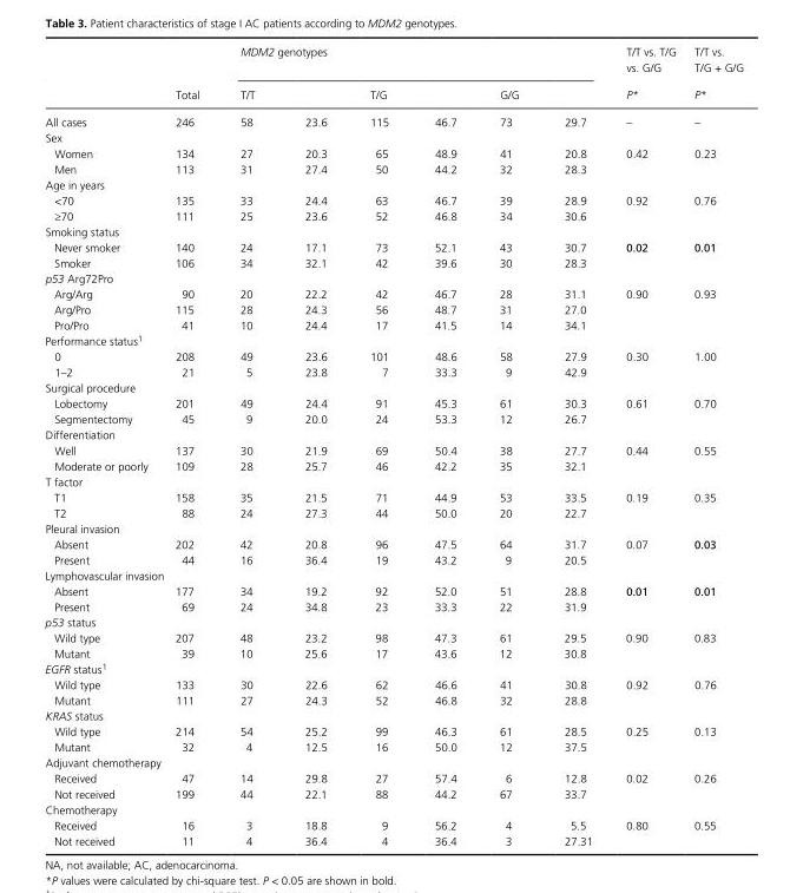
<table><thead><tr><td rowspan="3">All cases</td><td rowspan="3">Total 246</td><td colspan="6">MDM2 genotypes</td><td rowspan="3">T/T vs. T/G vs. G/G P* –</td><td rowspan="3">T/T vs. T/G + G/G P* –</td></tr><tr><td colspan="2">T/T</td><td colspan="2">T/G</td><td colspan="2">G/G</td></tr><tr><td>58</td><td>23.6</td><td>115</td><td>46.7</td><td>73</td><td>29.7</td></tr></thead><tbody><tr><td colspan="10">Sex</td></tr><tr><td>Women</td><td>134</td><td>27</td><td>20.3</td><td>65</td><td>48.9</td><td>41</td><td>20.8</td><td>0.42</td><td>0.23</td></tr><tr><td>Men</td><td>113</td><td>31</td><td>27.4</td><td>50</td><td>44.2</td><td>32</td><td>28.3</td><td></td><td></td></tr><tr><td colspan="10">Age in years</td></tr><tr><td>&lt;70</td><td>135</td><td>33</td><td>24.4</td><td>63</td><td>46.7</td><td>39</td><td>28.9</td><td>0.92</td><td>0.76</td></tr><tr><td>≥70</td><td>111</td><td>25</td><td>23.6</td><td>52</td><td>46.8</td><td>34</td><td>30.6</td><td></td><td></td></tr><tr><td colspan="10">Smoking status</td></tr><tr><td>Never smoker</td><td>140</td><td>24</td><td>17.1</td><td>73</td><td>52.1</td><td>43</td><td>30.7</td><td>0.02</td><td>0.01</td></tr><tr><td>Smoker</td><td>106</td><td>34</td><td>32.1</td><td>42</td><td>39.6</td><td>30</td><td>28.3</td><td></td><td></td></tr><tr><td colspan="10">p53 Arg72Pro</td></tr><tr><td>Arg/Arg</td><td>90</td><td>20</td><td>22.2</td><td>42</td><td>46.7</td><td>28</td><td>31.1</td><td>0.90</td><td>0.93</td></tr><tr><td>Arg/Pro</td><td>115</td><td>28</td><td>24.3</td><td>56</td><td>48.7</td><td>31</td><td>27.0</td><td></td><td></td></tr><tr><td>Pro/Pro</td><td>41</td><td>10</td><td>24.4</td><td>17</td><td>41.5</td><td>14</td><td>34.1</td><td></td><td></td></tr><tr><td colspan="10">Performance status1</td></tr><tr><td>0</td><td>208</td><td>49</td><td>23.6</td><td>101</td><td>48.6</td><td>58</td><td>27.9</td><td>0.30</td><td>1.00</td></tr><tr><td>1–2</td><td>21</td><td>5</td><td>23.8</td><td>7</td><td>33.3</td><td>9</td><td>42.9</td><td></td><td></td></tr><tr><td colspan="10">Surgical procedure</td></tr><tr><td>Lobectomy</td><td>201</td><td>49</td><td>24.4</td><td>91</td><td>45.3</td><td>61</td><td>30.3</td><td>0.61</td><td>0.70</td></tr><tr><td>Segmentectomy</td><td>45</td><td>9</td><td>20.0</td><td>24</td><td>53.3</td><td>12</td><td>26.7</td><td></td><td></td></tr><tr><td colspan="10">Differentiation</td></tr><tr><td>Well</td><td>137</td><td>30</td><td>21.9</td><td>69</td><td>50.4</td><td>38</td><td>27.7</td><td>0.44</td><td>0.55</td></tr><tr><td>Moderate or poorly</td><td>109</td><td>28</td><td>25.7</td><td>46</td><td>42.2</td><td>35</td><td>32.1</td><td></td><td></td></tr><tr><td colspan="10">T factor</td></tr><tr><td>T1</td><td>158</td><td>35</td><td>21.5</td><td>71</td><td>44.9</td><td>53</td><td>33.5</td><td>0.19</td><td>0.35</td></tr><tr><td>T2</td><td>88</td><td>24</td><td>27.3</td><td>44</td><td>50.0</td><td>20</td><td>22.7</td><td></td><td></td></tr><tr><td colspan="10">Pleural invasion</td></tr><tr><td>Absent</td><td>202</td><td>42</td><td>20.8</td><td>96</td><td>47.5</td><td>64</td><td>31.7</td><td>0.07</td><td>0.03</td></tr><tr><td>Present</td><td>44</td><td>16</td><td>36.4</td><td>19</td><td>43.2</td><td>9</td><td>20.5</td><td></td><td></td></tr><tr><td colspan="10">Lymphovascular invasion</td></tr><tr><td>Absent</td><td>177</td><td>34</td><td>19.2</td><td>92</td><td>52.0</td><td>51</td><td>28.8</td><td>0.01</td><td>0.01</td></tr><tr><td>Present</td><td>69</td><td>24</td><td>34.8</td><td>23</td><td>33.3</td><td>22</td><td>31.9</td><td></td><td></td></tr><tr><td colspan="10">p53 status</td></tr><tr><td>Wild type</td><td>207</td><td>48</td><td>23.2</td><td>98</td><td>47.3</td><td>61</td><td>29.5</td><td>0.90</td><td>0.83</td></tr><tr><td>Mutant</td><td>39</td><td>10</td><td>25.6</td><td>17</td><td>43.6</td><td>12</td><td>30.8</td><td></td><td></td></tr><tr><td colspan="10">EGFR status1</td></tr><tr><td>Wild type</td><td>133</td><td>30</td><td>22.6</td><td>62</td><td>46.6</td><td>41</td><td>30.8</td><td>0.92</td><td>0.76</td></tr><tr><td>Mutant</td><td>111</td><td>27</td><td>24.3</td><td>52</td><td>46.8</td><td>32</td><td>28.8</td><td></td><td></td></tr><tr><td colspan="10">KRAS status</td></tr><tr><td>Wild type</td><td>214</td><td>54</td><td>25.2</td><td>99</td><td>46.3</td><td>61</td><td>28.5</td><td>0.25</td><td>0.13</td></tr><tr><td>Mutant</td><td>32</td><td>4</td><td>12.5</td><td>16</td><td>50.0</td><td>12</td><td>37.5</td><td></td><td></td></tr><tr><td colspan="10">Adjuvant chemotherapy</td></tr><tr><td>Received</td><td>47</td><td>14</td><td>29.8</td><td>27</td><td>57.4</td><td>6</td><td>12.8</td><td>0.02</td><td>0.26</td></tr><tr><td>Not received</td><td>199</td><td>44</td><td>22.1</td><td>88</td><td>44.2</td><td>67</td><td>33.7</td><td></td><td></td></tr><tr><td colspan="10">Chemotherapy</td></tr><tr><td>Received</td><td>16</td><td>3</td><td>18.8</td><td>9</td><td>56.2</td><td>4</td><td>5.5</td><td>0.80</td><td>0.55</td></tr><tr><td>Not received</td><td>11</td><td>4</td><td>36.4</td><td>4</td><td>36.4</td><td>3</td><td>27.31</td><td></td><td></td></tr></tbody></table>